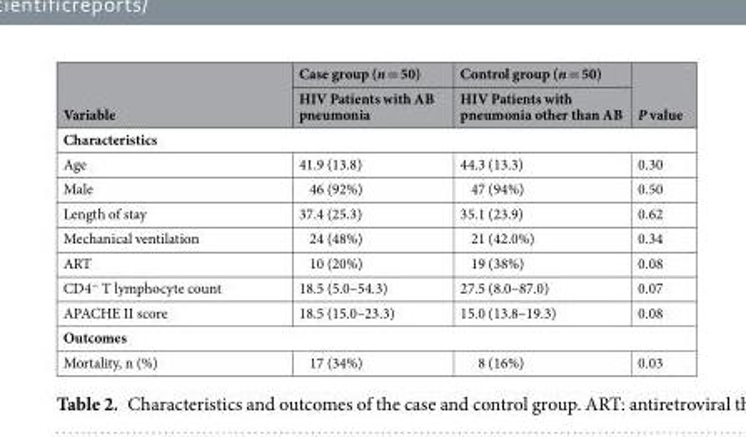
<table><thead><tr><td rowspan="2">Variable</td><td rowspan="2">Case group (n = 50) HIV Patients with AB pneumonia</td><td rowspan="2">Control group (n = 50) HIV Patients with pneumonia other than AB</td><td rowspan="2">P value</td></tr><tr></tr></thead><tbody><tr><td colspan="4">Characteristics</td></tr><tr><td>Age</td><td>41.9 (13.8)</td><td>44.3 (13.3)</td><td>0.30</td></tr><tr><td>Male</td><td>46 (92%)</td><td>47 (94%)</td><td>0.50</td></tr><tr><td>Length of stay</td><td>37.4 (25.3)</td><td>35.1 (23.9)</td><td>0.62</td></tr><tr><td>Mechanical ventilation</td><td>24 (48%)</td><td>21 (42.0%)</td><td>0.34</td></tr><tr><td>ART</td><td>10 (20%)</td><td>19 (38%)</td><td>0.08</td></tr><tr><td>CD4<sup>+</sup> T lymphocyte count</td><td>18.5 (5.0–54.3)</td><td>27.5 (8.0–87.0)</td><td>0.07</td></tr><tr><td>APACHE II score</td><td>18.5 (15.0–23.3)</td><td>15.0 (13.8–19.3)</td><td>0.08</td></tr><tr><td colspan="4">Outcomes</td></tr><tr><td>Mortality, n (%)</td><td>17 (34%)</td><td>8 (16%)</td><td>0.03</td></tr></tbody></table>